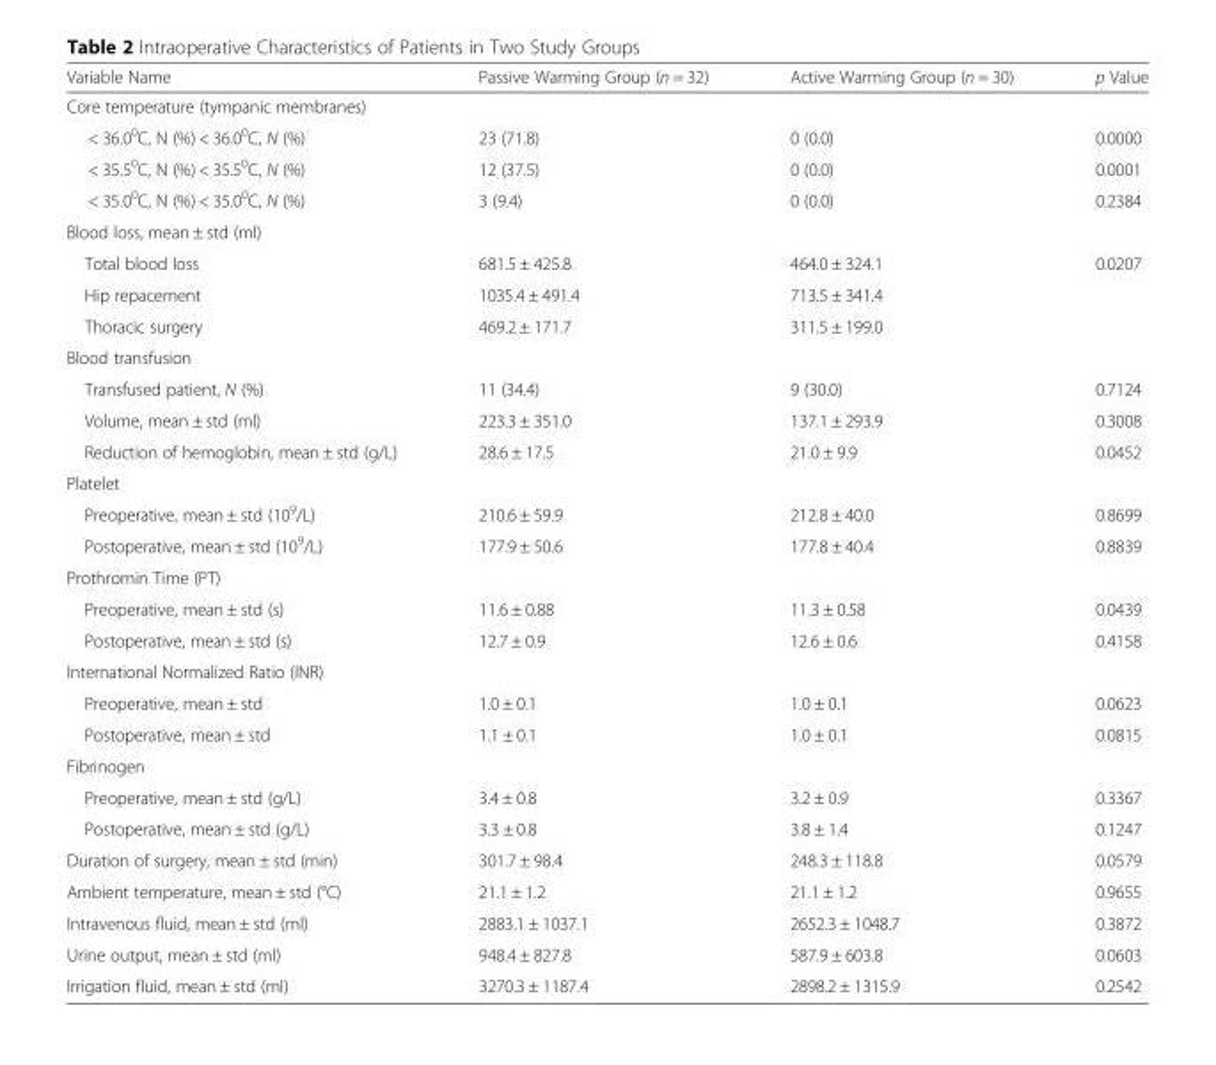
<table><thead><tr><td>Variable Name</td><td>Passive Warming Group (n = 32)</td><td>Active Warming Group (n = 30)</td><td>p Value</td></tr></thead><tbody><tr><td colspan="4">Core temperature (tympanic membranes)</td></tr><tr><td>&lt; 36.0<sup>0</sup>C, N (%) &lt; 36.0<sup>0</sup>C, N (%)</td><td>23 (71.8)</td><td>0 (0.0)</td><td>0.0000</td></tr><tr><td>&lt; 35.5<sup>0</sup>C, N (%) &lt; 35.5<sup>0</sup>C, N (%)</td><td>12 (37.5)</td><td>0 (0.0)</td><td>0.0001</td></tr><tr><td>&lt; 35.0<sup>0</sup>C, N (%) &lt; 35.0<sup>0</sup>C, N (%)</td><td>3 (9.4)</td><td>0 (0.0)</td><td>0.2384</td></tr><tr><td colspan="4">Blood loss, mean ± std (ml)</td></tr><tr><td>Total blood loss</td><td>681.5 ± 425.8</td><td>464.0 ± 324.1</td><td>0.0207</td></tr><tr><td>Hip repacement</td><td>1035.4 ± 491.4</td><td>713.5 ± 341.4</td><td></td></tr><tr><td>Thoracic surgery</td><td>469.2 ± 171.7</td><td>311.5 ± 199.0</td><td></td></tr><tr><td colspan="4">Blood transfusion</td></tr><tr><td>Transfused patient, N (%)</td><td>11 (34.4)</td><td>9 (30.0)</td><td>0.7124</td></tr><tr><td>Volume, mean ± std (ml)</td><td>223.3 ± 351.0</td><td>137.1 ± 293.9</td><td>0.3008</td></tr><tr><td>Reduction of hemoglobin, mean ± std (g/L)</td><td>28.6 ± 17.5</td><td>21.0 ± 9.9</td><td>0.0452</td></tr><tr><td colspan="4">Platelet</td></tr><tr><td>Preoperative, mean ± std (10<sup>9</sup>/L)</td><td>210.6 ± 59.9</td><td>212.8 ± 40.0</td><td>0.8699</td></tr><tr><td>Postoperative, mean ± std (10<sup>9</sup>/L)</td><td>177.9 ± 50.6</td><td>177.8 ± 40.4</td><td>0.8839</td></tr><tr><td colspan="4">Prothromin Time (PT)</td></tr><tr><td>Preoperative, mean ± std (s)</td><td>11.6 ± 0.88</td><td>11.3 ± 0.58</td><td>0.0439</td></tr><tr><td>Postoperative, mean ± std (s)</td><td>12.7 ± 0.9</td><td>12.6 ± 0.6</td><td>0.4158</td></tr><tr><td colspan="4">International Normalized Ratio (INR)</td></tr><tr><td>Preoperative, mean ± std</td><td>1.0 ± 0.1</td><td>1.0 ± 0.1</td><td>0.0623</td></tr><tr><td>Postoperative, mean ± std</td><td>1.1 ± 0.1</td><td>1.0 ± 0.1</td><td>0.0815</td></tr><tr><td colspan="4">Fibrinogen</td></tr><tr><td>Preoperative, mean ± std (g/L)</td><td>3.4 ± 0.8</td><td>3.2 ± 0.9</td><td>0.3367</td></tr><tr><td>Postoperative, mean ± std (g/L)</td><td>3.3 ± 0.8</td><td>3.8 ± 1.4</td><td>0.1247</td></tr><tr><td>Duration of surgery, mean ± std (min)</td><td>301.7 ± 98.4</td><td>248.3 ± 118.8</td><td>0.0579</td></tr><tr><td>Ambient temperature, mean ± std (°C)</td><td>21.1 ± 1.2</td><td>21.1 ± 1.2</td><td>0.9655</td></tr><tr><td>Intravenous fluid, mean ± std (ml)</td><td>2883.1 ± 1037.1</td><td>2652.3 ± 1048.7</td><td>0.3872</td></tr><tr><td>Urine output, mean ± std (ml)</td><td>948.4 ± 827.8</td><td>587.9 ± 603.8</td><td>0.0603</td></tr><tr><td>Irrigation fluid, mean ± std (ml)</td><td>3270.3 ± 1187.4</td><td>2898.2 ± 1315.9</td><td>0.2542</td></tr></tbody></table>